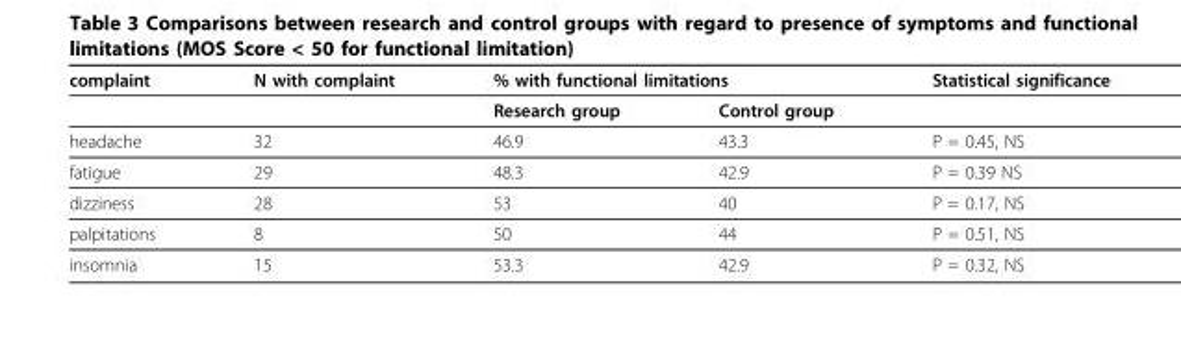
<table><thead><tr><td rowspan="2">complaint</td><td rowspan="2">N with complaint</td><td colspan="2">% with functional limitations</td><td rowspan="2">Statistical significance</td></tr><tr><td>Research group</td><td>Control group</td></tr></thead><tbody><tr><td>headache</td><td>32</td><td>46.9</td><td>43.3</td><td>P = 0.45, NS</td></tr><tr><td>fatigue</td><td>29</td><td>48.3</td><td>42.9</td><td>P = 0.39 NS</td></tr><tr><td>dizziness</td><td>28</td><td>53</td><td>40</td><td>P = 0.17, NS</td></tr><tr><td>palpitations</td><td>8</td><td>50</td><td>44</td><td>P = 0.51, NS</td></tr><tr><td>insomnia</td><td>15</td><td>53.3</td><td>42.9</td><td>P = 0.32, NS</td></tr></tbody></table>